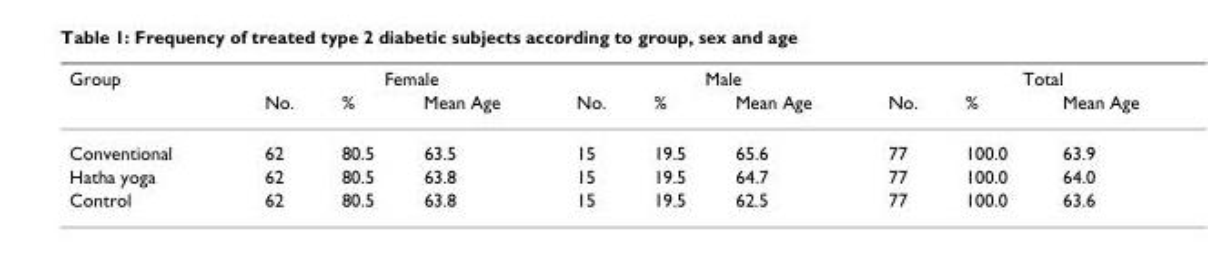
<table><thead><tr><td rowspan="2">Group</td><td colspan="3">Female</td><td colspan="3">Male</td><td colspan="3">Total</td></tr><tr><td>No.</td><td>%</td><td>Mean Age</td><td>No.</td><td>%</td><td>Mean Age</td><td>No.</td><td>%</td><td>Mean Age</td></tr></thead><tbody><tr><td>Conventional</td><td>62</td><td>80.5</td><td>63.5</td><td>15</td><td>19.5</td><td>65.6</td><td>77</td><td>100.0</td><td>63.9</td></tr><tr><td>Hatha yoga</td><td>62</td><td>80.5</td><td>63.8</td><td>15</td><td>19.5</td><td>64.7</td><td>77</td><td>100.0</td><td>64.0</td></tr><tr><td>Control</td><td>62</td><td>80.5</td><td>63.8</td><td>15</td><td>19.5</td><td>62.5</td><td>77</td><td>100.0</td><td>63.6</td></tr></tbody></table>